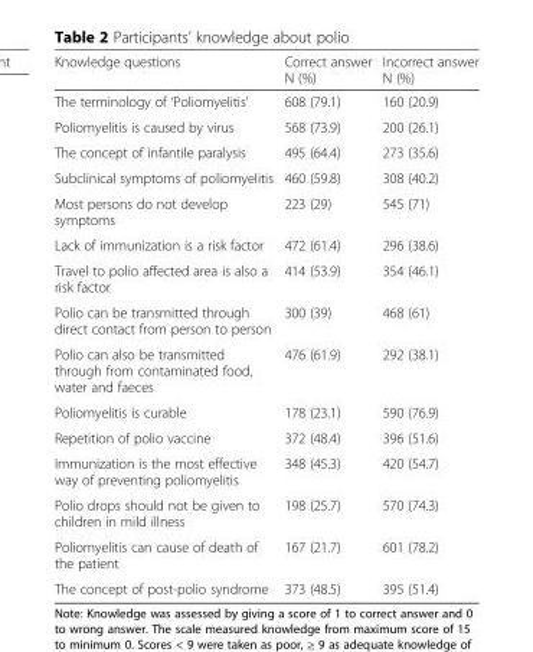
<table><thead><tr><td>Knowledge questions</td><td>Correct answer N (%)</td><td>Incorrect answer N (%)</td></tr></thead><tbody><tr><td>The terminology of ‘Poliomyelitis’</td><td>608 (79.1)</td><td>160 (20.9)</td></tr><tr><td>Poliomyelitis is caused by virus</td><td>568 (73.9)</td><td>200 (26.1)</td></tr><tr><td>The concept of infantile paralysis</td><td>495 (64.4)</td><td>273 (35.6)</td></tr><tr><td>Subclinical symptoms of poliomyelitis</td><td>460 (59.8)</td><td>308 (40.2)</td></tr><tr><td>Most persons do not develop symptoms</td><td>223 (29)</td><td>545 (71)</td></tr><tr><td>Lack of immunization is a risk factor</td><td>472 (61.4)</td><td>296 (38.6)</td></tr><tr><td>Travel to polio affected area is also a risk factor</td><td>414 (53.9)</td><td>354 (46.1)</td></tr><tr><td>Polio can be transmitted through direct contact from person to person</td><td>300 (39)</td><td>468 (61)</td></tr><tr><td>Polio can also be transmitted through from contaminated food, water and faeces</td><td>476 (61.9)</td><td>292 (38.1)</td></tr><tr><td>Poliomyelitis is curable</td><td>178 (23.1)</td><td>590 (76.9)</td></tr><tr><td>Repetition of polio vaccine</td><td>372 (48.4)</td><td>396 (51.6)</td></tr><tr><td>Immunization is the most effective way of preventing poliomyelitis</td><td>348 (45.3)</td><td>420 (54.7)</td></tr><tr><td>Polio drops should not be given to children in mild illness</td><td>198 (25.7)</td><td>570 (74.3)</td></tr><tr><td>Poliomyelitis can cause of death of the patient</td><td>167 (21.7)</td><td>601 (78.2)</td></tr><tr><td>The concept of post-polio syndrome</td><td>373 (48.5)</td><td>395 (51.4)</td></tr></tbody></table>